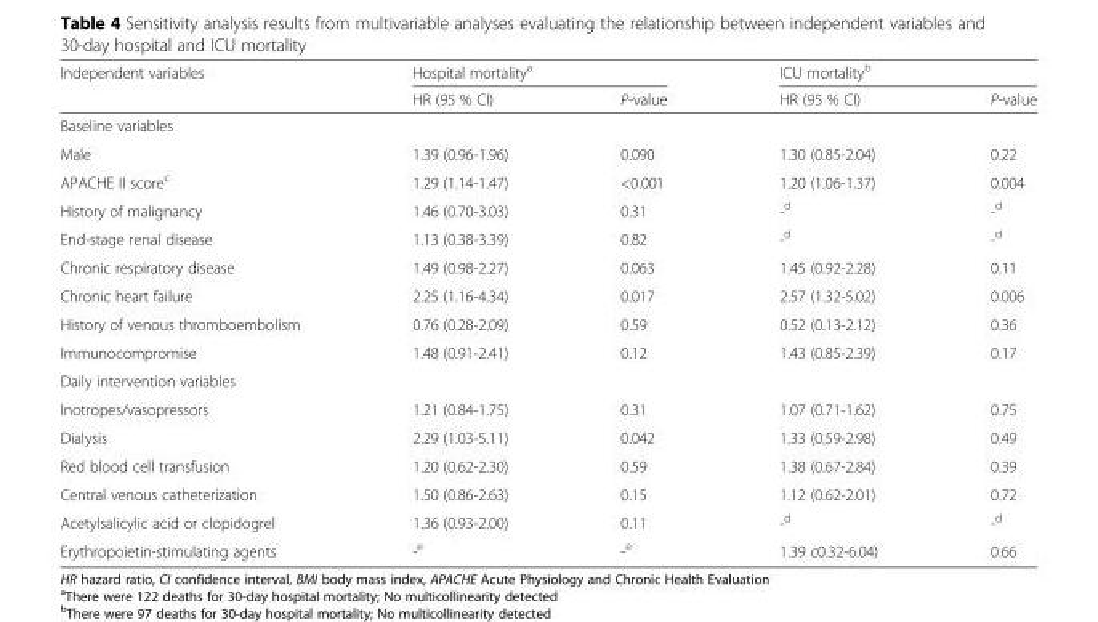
<table><thead><tr><td rowspan="2">Independent variables</td><td colspan="2">Hospital mortality<sup>a</sup></td><td colspan="2">ICU mortality<sup>b</sup></td></tr><tr><td>HR (95 % CI)</td><td>P-value</td><td>HR (95 % CI)</td><td>P-value</td></tr></thead><tbody><tr><td colspan="5">Baseline variables</td></tr><tr><td>Male</td><td>1.39 (0.96-1.96)</td><td>0.090</td><td>1.30 (0.85-2.04)</td><td>0.22</td></tr><tr><td>APACHE II score<sup>c</sup></td><td>1.29 (1.14-1.47)</td><td>&lt;0.001</td><td>1.20 (1.06-1.37)</td><td>0.004</td></tr><tr><td>History of malignancy</td><td>1.46 (0.70-3.03)</td><td>0.31</td><td>-<sup>d</sup></td><td>-<sup>d</sup></td></tr><tr><td>End-stage renal disease</td><td>1.13 (0.38-3.39)</td><td>0.82</td><td>-<sup>d</sup></td><td>-<sup>d</sup></td></tr><tr><td>Chronic respiratory disease</td><td>1.49 (0.98-2.27)</td><td>0.063</td><td>1.45 (0.92-2.28)</td><td>0.11</td></tr><tr><td>Chronic heart failure</td><td>2.25 (1.16-4.34)</td><td>0.017</td><td>2.57 (1.32-5.02)</td><td>0.006</td></tr><tr><td>History of venous thromboembolism</td><td>0.76 (0.28-2.09)</td><td>0.59</td><td>0.52 (0.13-2.12)</td><td>0.36</td></tr><tr><td>Immunocompromise</td><td>1.48 (0.91-2.41)</td><td>0.12</td><td>1.43 (0.85-2.39)</td><td>0.17</td></tr><tr><td colspan="5">Daily intervention variables</td></tr><tr><td>Inotropes/vasopressors</td><td>1.21 (0.84-1.75)</td><td>0.31</td><td>1.07 (0.71-1.62)</td><td>0.75</td></tr><tr><td>Dialysis</td><td>2.29 (1.03-5.11)</td><td>0.042</td><td>1.33 (0.59-2.98)</td><td>0.49</td></tr><tr><td>Red blood cell transfusion</td><td>1.20 (0.62-2.30)</td><td>0.59</td><td>1.38 (0.67-2.84)</td><td>0.39</td></tr><tr><td>Central venous catheterization</td><td>1.50 (0.86-2.63)</td><td>0.15</td><td>1.12 (0.62-2.01)</td><td>0.72</td></tr><tr><td>Acetylsalicylic acid or clopidogrel</td><td>1.36 (0.93-2.00)</td><td>0.11</td><td>-<sup>d</sup></td><td>-<sup>d</sup></td></tr><tr><td>Erythropoietin-stimulating agents</td><td>-<sup>e</sup></td><td>-<sup>e</sup></td><td>1.39 c0.32-6.04)</td><td>0.66</td></tr></tbody></table>